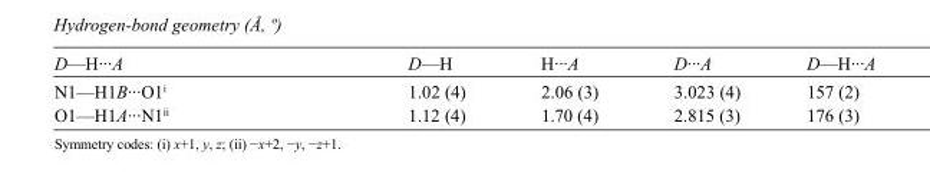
<table><tbody><tr><td>D—H···A</td><td>D—H</td><td>H···A</td><td>D···A</td><td>D—H···A</td></tr><tr><td>N1—H1B···O1<sup>i</sup></td><td>1.02 (4)</td><td>2.06 (3)</td><td>3.023 (4)</td><td>157 (2)</td></tr><tr><td>O1—H1A···N1<sup>ii</sup></td><td>1.12 (4)</td><td>1.70 (4)</td><td>2.815 (3)</td><td>176 (3)</td></tr></tbody></table>